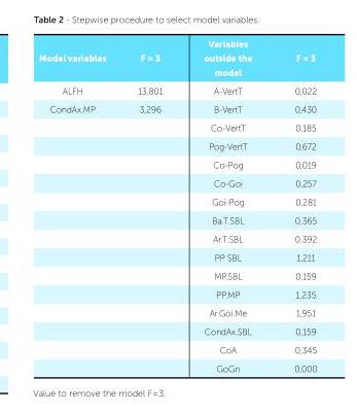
<table><thead><tr><td>Model variables</td><td>F = 3</td><td>Variables outside the model</td><td>F = 3</td></tr></thead><tbody><tr><td>ALFH</td><td>13,801</td><td>A-VertT</td><td>0,022</td></tr><tr><td rowspan="15">CondAx.MP</td><td>3,296</td><td>B-VertT</td><td>0,430</td></tr><tr><td></td><td>Co-VertT</td><td>0,185</td></tr><tr><td></td><td>Pog-VertT</td><td>0,672</td></tr><tr><td></td><td>Co-Pog</td><td>0,019</td></tr><tr><td></td><td>Co-Goi</td><td>0,257</td></tr><tr><td></td><td>Goi-Pog</td><td>0,281</td></tr><tr><td></td><td>Ba.T.SBL</td><td>0,365</td></tr><tr><td></td><td>Ar.T.SBL</td><td>0.392</td></tr><tr><td></td><td>PP SBL</td><td>1,211</td></tr><tr><td></td><td>MP.SBL</td><td>0,159</td></tr><tr><td></td><td>PP.MP</td><td>1,235</td></tr><tr><td></td><td>Ar.Goi.Me</td><td>1,951</td></tr><tr><td></td><td>CondAx.SBL</td><td>0,159</td></tr><tr><td></td><td>CoA</td><td>0,345</td></tr><tr><td></td><td>GoGn</td><td>0,000</td></tr></tbody></table>